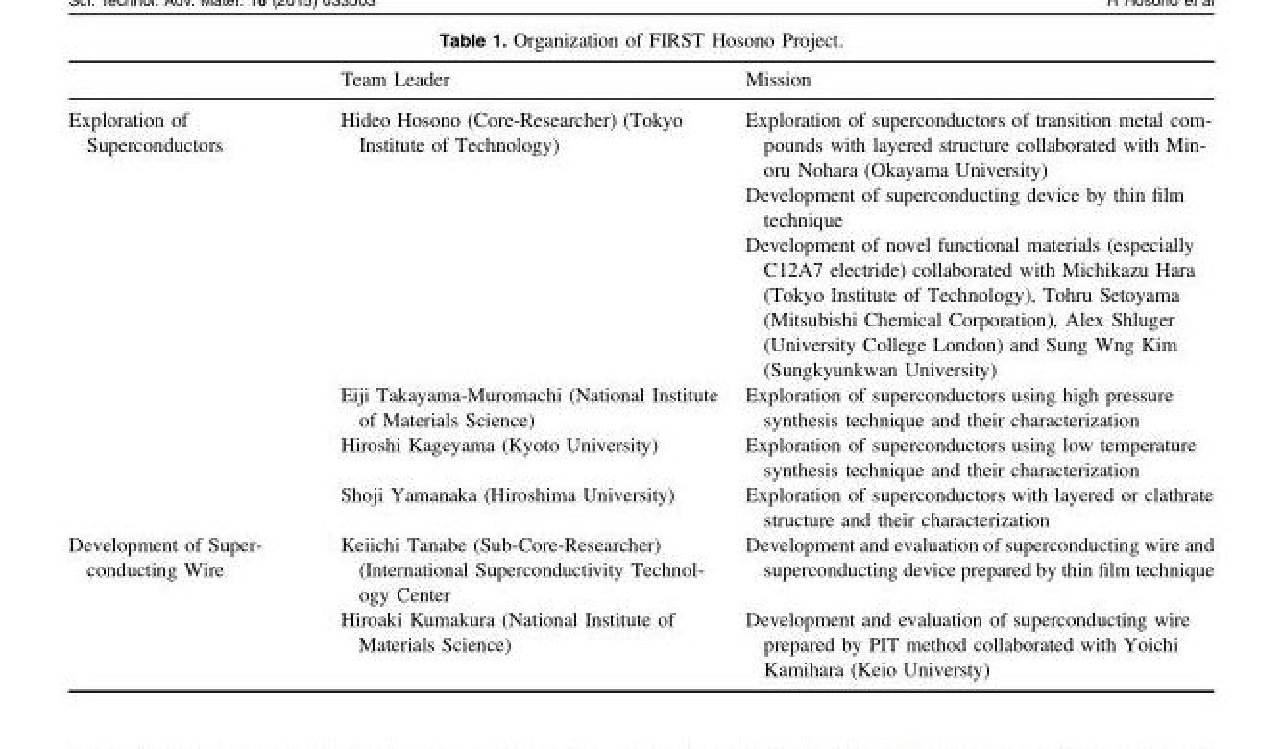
<table><thead><tr><td></td><td>Team Leader</td><td>Mission</td></tr></thead><tbody><tr><td rowspan="6">Exploration of Superconductors</td><td>Hideo Hosono (Core-Researcher) (Tokyo Institute of Technology)</td><td>Exploration of superconductors of transition metal com- pounds with layered structure collaborated with Min- oru Nohara (Okayama University)</td></tr><tr><td></td><td>Development of superconducting device by thin film technique</td></tr><tr><td></td><td>Development of novel functional materials (especially C12A7 electride) collaborated with Michikazu Hara (Tokyo Institute of Technology), Tohru Setoyama (Mitsubishi Chemical Corporation), Alex Shluger (University College London) and Sung Wng Kim (Sungkyunkwan University)</td></tr><tr><td>Eiji Takayama-Muromachi (National Institute of Materials Science)</td><td>Exploration of superconductors using high pressure synthesis technique and their characterization</td></tr><tr><td>Hiroshi Kageyama (Kyoto University)</td><td>Exploration of superconductors using low temperature synthesis technique and their characterization</td></tr><tr><td>Shoji Yamanaka (Hiroshima University)</td><td>Exploration of superconductors with layered or clathrate structure and their characterization</td></tr><tr><td rowspan="2">Development of Super- conducting Wire</td><td>Keiichi Tanabe (Sub-Core-Researcher) (International Superconductivity Technol- ogy Center</td><td>Development and evaluation of superconducting wire and superconducting device prepared by thin film technique</td></tr><tr><td>Hiroaki Kumakura (National Institute of Materials Science)</td><td>Development and evaluation of superconducting wire prepared by PIT method collaborated with Yoichi Kamihara (Keio Universty)</td></tr></tbody></table>